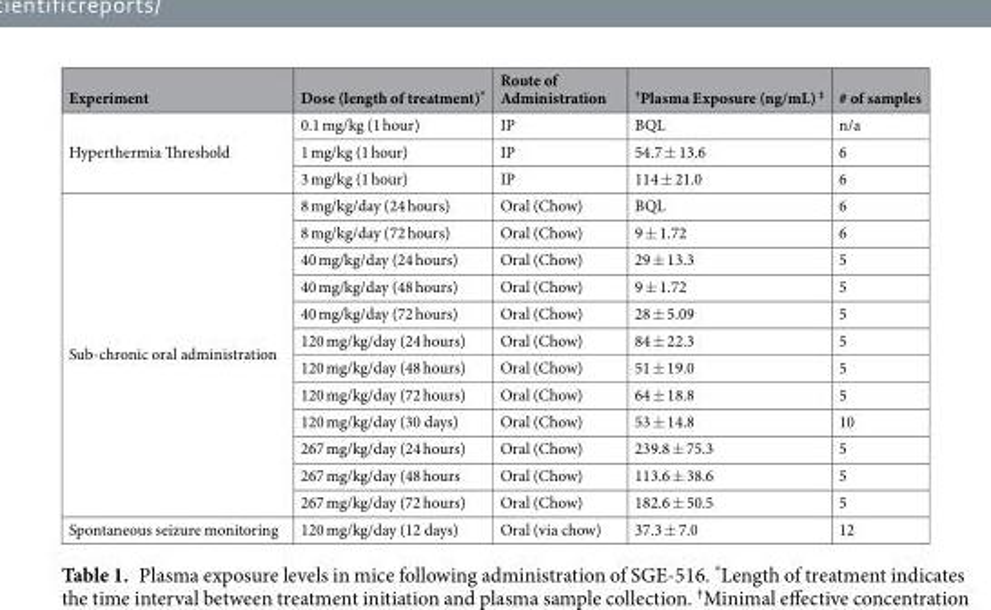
<table><thead><tr><td>Experiment</td><td>Dose (length of treatment)*</td><td>Route of Administration</td><td><sup>†</sup>Plasma Exposure (ng/mL) <sup>‡</sup></td><td># of samples</td></tr></thead><tbody><tr><td rowspan="3">Hyperthermia Threshold</td><td>0.1 mg/kg (1 hour)</td><td>IP</td><td>BQL</td><td>n/a</td></tr><tr><td>1 mg/kg (1 hour)</td><td>IP</td><td>54.7 ± 13.6</td><td>6</td></tr><tr><td>3 mg/kg (1 hour)</td><td>IP</td><td>114 ± 21.0</td><td>6</td></tr><tr><td rowspan="12">Sub-chronic oral administration</td><td>8 mg/kg/day (24 hours)</td><td>Oral (Chow)</td><td>BQL</td><td>6</td></tr><tr><td>8 mg/kg/day (72 hours)</td><td>Oral (Chow)</td><td>9 ± 1.72</td><td>6</td></tr><tr><td>40 mg/kg/day (24 hours)</td><td>Oral (Chow)</td><td>29 ± 13.3</td><td>5</td></tr><tr><td>40 mg/kg/day (48 hours)</td><td>Oral (Chow)</td><td>9 ± 1.72</td><td>5</td></tr><tr><td>40 mg/kg/day (72 hours)</td><td>Oral (Chow)</td><td>28 ± 5.09</td><td>5</td></tr><tr><td>120 mg/kg/day (24 hours)</td><td>Oral (Chow)</td><td>84 ± 22.3</td><td>5</td></tr><tr><td>120 mg/kg/day (48 hours)</td><td>Oral (Chow)</td><td>51 ± 19.0</td><td>5</td></tr><tr><td>120 mg/kg/day (72 hours)</td><td>Oral (Chow)</td><td>64 ± 18.8</td><td>5</td></tr><tr><td>120 mg/kg/day (30 days)</td><td>Oral (Chow)</td><td>53 ± 14.8</td><td>10</td></tr><tr><td>267 mg/kg/day (24 hours)</td><td>Oral (Chow)</td><td>239.8 ± 75.3</td><td>5</td></tr><tr><td>267 mg/kg/day (48 hours</td><td>Oral (Chow)</td><td>113.6 ± 38.6</td><td>5</td></tr><tr><td>267 mg/kg/day (72 hours)</td><td>Oral (Chow)</td><td>182.6 ± 50.5</td><td>5</td></tr><tr><td>Spontaneous seizure monitoring</td><td>120 mg/kg/day (12 days)</td><td>Oral (via chow)</td><td>37.3 ± 7.0</td><td>12</td></tr></tbody></table>